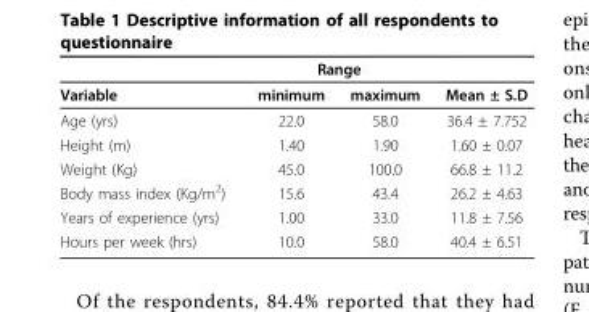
<table><thead><tr><td rowspan="2">Variable</td><td colspan="2">Range</td><td rowspan="2">Mean ± S.D</td></tr><tr><td>minimum</td><td>maximum</td></tr></thead><tbody><tr><td>Age (yrs)</td><td>22.0</td><td>58.0</td><td>36.4 ± 7.752</td></tr><tr><td>Height (m)</td><td>1.40</td><td>1.90</td><td>1.60 ± 0.07</td></tr><tr><td>Weight (Kg)</td><td>45.0</td><td>100.0</td><td>66.8 ± 11.2</td></tr><tr><td>Body mass index (Kg/m<sup>2</sup>)</td><td>15.6</td><td>43.4</td><td>26.2 ± 4.63</td></tr><tr><td>Years of experience (yrs)</td><td>1.00</td><td>33.0</td><td>11.8 ± 7.56</td></tr><tr><td>Hours per week (hrs)</td><td>10.0</td><td>58.0</td><td>40.4 ± 6.51</td></tr></tbody></table>